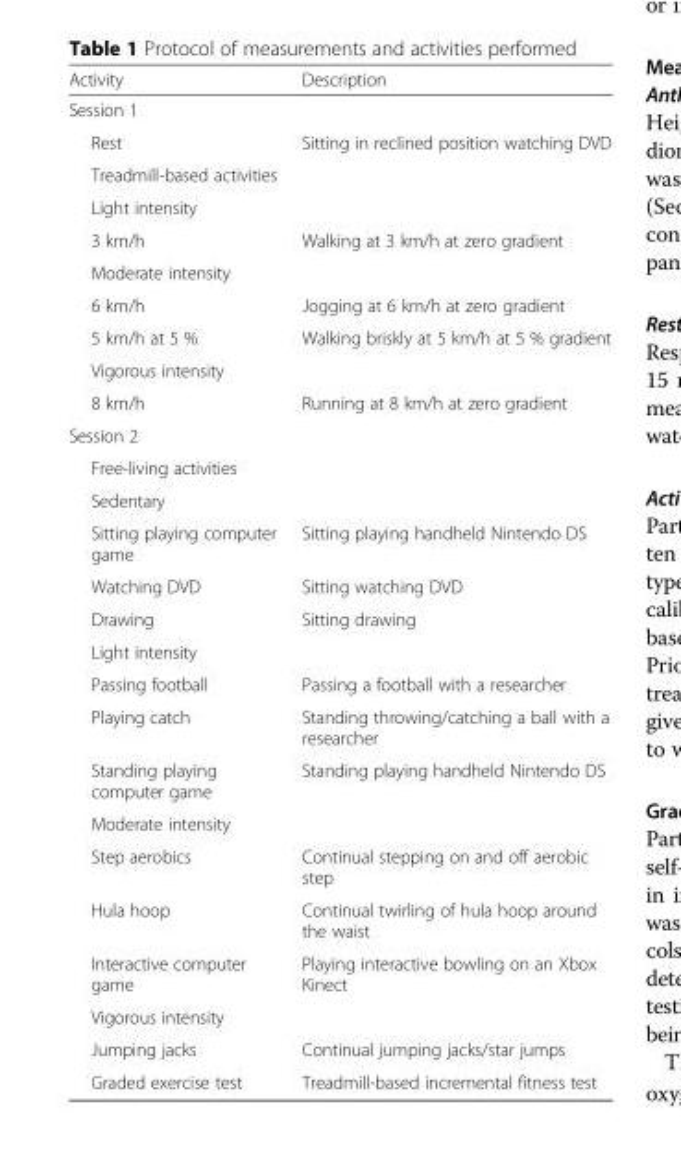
<table><thead><tr><td>Activity</td><td>Description</td></tr></thead><tbody><tr><td colspan="2">Session 1</td></tr><tr><td>Rest</td><td>Sitting in reclined position watching DVD</td></tr><tr><td colspan="2">Treadmill-based activities</td></tr><tr><td colspan="2">Light intensity</td></tr><tr><td>3 km/h</td><td>Walking at 3 km/h at zero gradient</td></tr><tr><td colspan="2">Moderate intensity</td></tr><tr><td>6 km/h</td><td>Jogging at 6 km/h at zero gradient</td></tr><tr><td>5 km/h at 5 %</td><td>Walking briskly at 5 km/h at 5 % gradient</td></tr><tr><td colspan="2">Vigorous intensity</td></tr><tr><td>8 km/h</td><td>Running at 8 km/h at zero gradient</td></tr><tr><td colspan="2">Session 2</td></tr><tr><td colspan="2">Free-living activities</td></tr><tr><td colspan="2">Sedentary</td></tr><tr><td>Sitting playing computer game</td><td>Sitting playing handheld Nintendo DS</td></tr><tr><td>Watching DVD</td><td>Sitting watching DVD</td></tr><tr><td>Drawing</td><td>Sitting drawing</td></tr><tr><td colspan="2">Light intensity</td></tr><tr><td>Passing football</td><td>Passing a football with a researcher</td></tr><tr><td>Playing catch</td><td>Standing throwing/catching a ball with a researcher</td></tr><tr><td>Standing playing computer game</td><td>Standing playing handheld Nintendo DS</td></tr><tr><td colspan="2">Moderate intensity</td></tr><tr><td>Step aerobics</td><td>Continual stepping on and off aerobic step</td></tr><tr><td>Hula hoop</td><td>Continual twirling of hula hoop around the waist</td></tr><tr><td>Interactive computer game</td><td>Playing interactive bowling on an Xbox Kinect</td></tr><tr><td colspan="2">Vigorous intensity</td></tr><tr><td>Jumping jacks</td><td>Continual jumping jacks/star jumps</td></tr><tr><td>Graded exercise test</td><td>Treadmill-based incremental fitness test</td></tr></tbody></table>